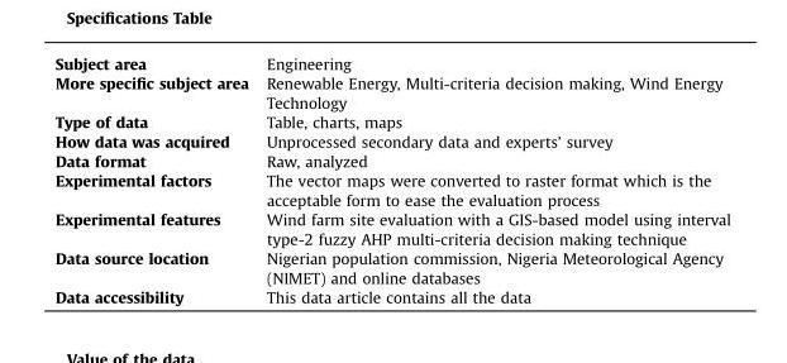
<table><tbody><tr><td>Subject area</td><td>Engineering</td></tr><tr><td>More specific subject area</td><td>Renewable Energy, Multi-criteria decision making, Wind Energy Technology</td></tr><tr><td>Type of data</td><td>Table, charts, maps</td></tr><tr><td>How data was acquired</td><td>Unprocessed secondary data and experts’ survey</td></tr><tr><td>Data format</td><td>Raw, analyzed</td></tr><tr><td>Experimental factors</td><td>The vector maps were converted to raster format which is the acceptable form to ease the evaluation process</td></tr><tr><td>Experimental features</td><td>Wind farm site evaluation with a GIS-based model using interval type-2 fuzzy AHP multi-criteria decision making technique</td></tr><tr><td>Data source location</td><td>Nigerian population commission, Nigeria Meteorological Agency (NIMET) and online databases</td></tr><tr><td>Data accessibility</td><td>This data article contains all the data</td></tr></tbody></table>